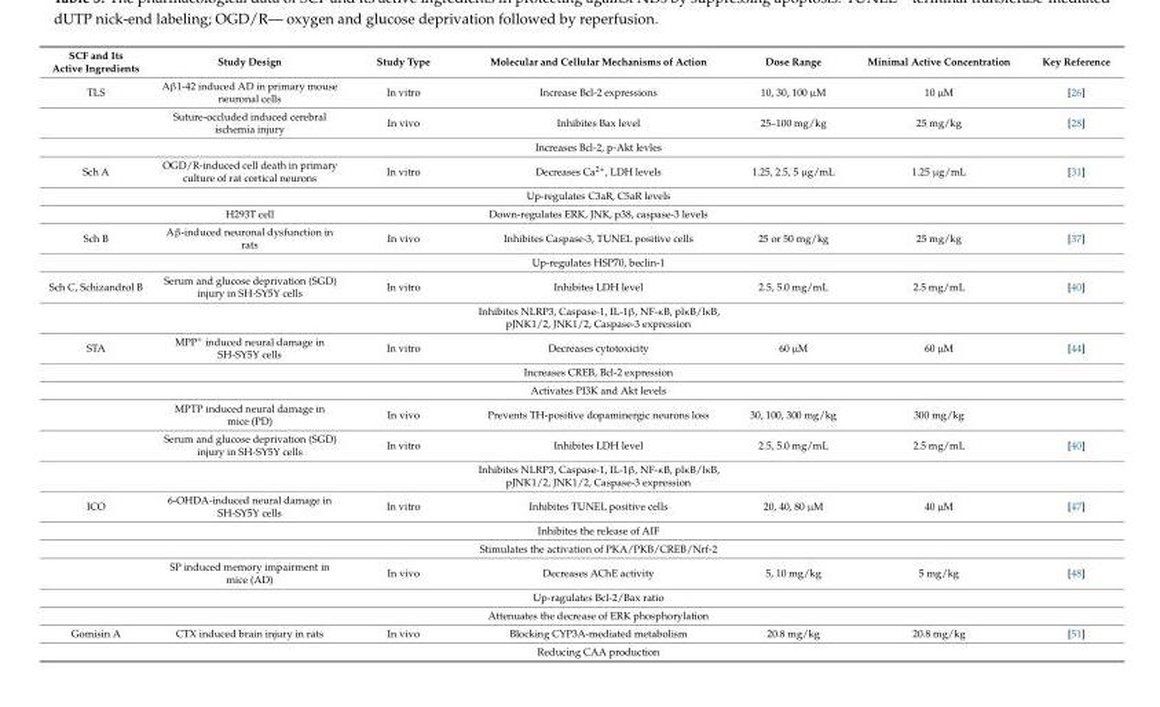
<table><thead><tr><td>SCF and Its Active Ingredients</td><td>Study Design</td><td>Study Type</td><td>Molecular and Cellular Mechanisms of Action</td><td>Dose Range</td><td>Minimal Active Concentration</td><td>Key Reference</td></tr></thead><tbody><tr><td rowspan="3">TLS</td><td>Aβ1-42 induced AD in primary mouse neuronal cells</td><td>In vitro</td><td>Increase Bcl-2 expressions</td><td>10, 30, 100 µM</td><td>10 µM</td><td>[26]</td></tr><tr><td>Suture-occluded induced cerebral ischemia injury</td><td>In vivo</td><td>Inhibites Bax level</td><td>25–100 mg/kg</td><td>25 mg/kg</td><td>[28]</td></tr><tr><td></td><td></td><td>Increases Bcl-2, p-Akt levles</td><td></td><td></td><td></td></tr><tr><td rowspan="3">Sch A</td><td>OGD/R-induced cell death in primary culture of rat cortical neurons</td><td>In vitro</td><td>Decreases Ca<sup>2+</sup>, LDH levels</td><td>1.25, 2.5, 5 µg/mL</td><td>1.25 µg/mL</td><td>[31]</td></tr><tr><td></td><td></td><td>Up-regulates C3aR, C5aR levels</td><td></td><td></td><td></td></tr><tr><td>H293T cell</td><td></td><td>Down-regulates ERK, JNK, p38, caspase-3 levels</td><td></td><td></td><td></td></tr><tr><td rowspan="2">Sch B</td><td>Aβ-induced neuronal dysfunction in rats</td><td>In vivo</td><td>Inhibites Caspase-3, TUNEL positive cells</td><td>25 or 50 mg/kg</td><td>25 mg/kg</td><td>[37]</td></tr><tr><td></td><td></td><td>Up-regulates HSP70, beclin-1</td><td></td><td></td><td></td></tr><tr><td rowspan="2">Sch C, Schizandrol B</td><td>Serum and glucose deprivation (SGD) injury in SH-SY5Y cells</td><td>In vitro</td><td>Inhibites LDH level</td><td>2.5, 5.0 mg/mL</td><td>2.5 mg/mL</td><td>[40]</td></tr><tr><td></td><td></td><td>Inhibites NLRP3, Caspase-1, IL-1β, NF-κB, plκB/lκB, pJNK1/2, JNK1/2, Caspase-3 expression</td><td></td><td></td><td></td></tr><tr><td rowspan="6">STA</td><td>MPP<sup>+</sup> induced neural damage in SH-SY5Y cells</td><td>In vitro</td><td>Decreases cytotoxicity</td><td>60 µM</td><td>60 µM</td><td>[44]</td></tr><tr><td></td><td></td><td>Increases CREB, Bcl-2 expression</td><td></td><td></td><td></td></tr><tr><td></td><td></td><td>Activates PI3K and Akt levels</td><td></td><td></td><td></td></tr><tr><td>MPTP induced neural damage in mice (PD)</td><td>In vivo</td><td>Prevents TH-positive dopaminergic neurons loss</td><td>30, 100, 300 mg/kg</td><td>300 mg/kg</td><td></td></tr><tr><td>Serum and glucose deprivation (SGD) injury in SH-SY5Y cells</td><td>In vitro</td><td>Inhibites LDH level</td><td>2.5, 5.0 mg/mL</td><td>2.5 mg/mL</td><td>[40]</td></tr><tr><td></td><td></td><td>Inhibites NLRP3, Caspase-1, IL-1β, NF-κB, plκB/lκB, pJNK1/2, JNK1/2, Caspase-3 expression</td><td></td><td></td><td></td></tr><tr><td rowspan="6">ICO</td><td>6-OHDA-induced neural damage in SH-SY5Y cells</td><td>In vitro</td><td>Inhibites TUNEL positive cells</td><td>20, 40, 80 µM</td><td>40 µM</td><td>[47]</td></tr><tr><td></td><td></td><td>Inhibites the release of AIF</td><td></td><td></td><td></td></tr><tr><td></td><td></td><td>Stimulates the activation of PKA/PKB/CREB/Nrf-2</td><td></td><td></td><td></td></tr><tr><td>SP induced memory impairment in mice (AD)</td><td>In vivo</td><td>Decreases AChE activity</td><td>5, 10 mg/kg</td><td>5 mg/kg</td><td>[48]</td></tr><tr><td></td><td></td><td>Up-ragulates Bcl-2/Bax ratio</td><td></td><td></td><td></td></tr><tr><td></td><td></td><td>Attenuates the decrease of ERK phosphorylation</td><td></td><td></td><td></td></tr><tr><td rowspan="2">Gomisin A</td><td>CTX induced brain injury in rats</td><td>In vivo</td><td>Blocking CYP3A-mediated metabolism</td><td>20.8 mg/kg</td><td>20.8 mg/kg</td><td>[51]</td></tr><tr><td></td><td></td><td>Reducing CAA production</td><td></td><td></td><td></td></tr></tbody></table>